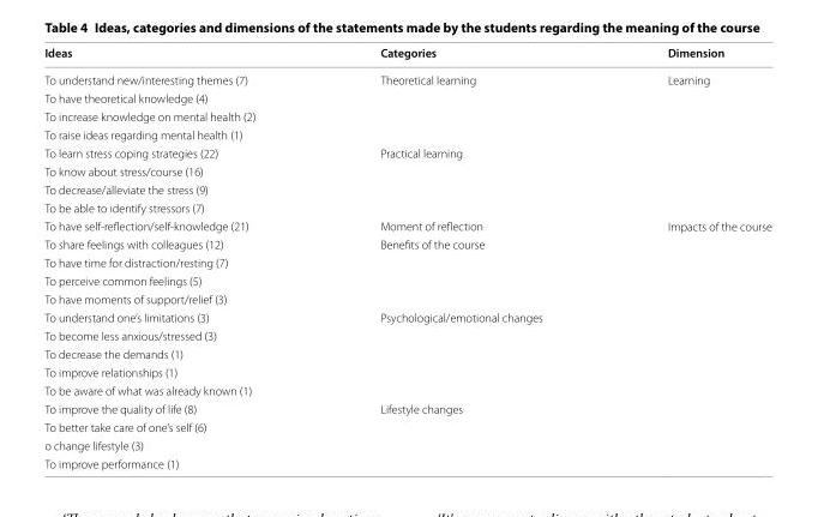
<table><thead><tr><td>Ideas</td><td>Categories</td><td>Dimension</td></tr></thead><tbody><tr><td>To understand new/interesting themes (7)</td><td rowspan="4">Theoretical learning</td><td rowspan="8">Learning</td></tr><tr><td>To have theoretical knowledge (4)</td></tr><tr><td>To increase knowledge on mental health (2)</td></tr><tr><td>To raise ideas regarding mental health (1)</td></tr><tr><td>To learn stress coping strategies (22)</td><td rowspan="4">Practical learning</td></tr><tr><td>To know about stress/course (16)</td></tr><tr><td>To decrease/alleviate the stress (9)</td></tr><tr><td>To be able to identify stressors (7)</td></tr><tr><td>To have self-reflection/self-knowledge (21)</td><td>Moment of reflection</td><td rowspan="14">Impacts of the course</td></tr><tr><td>To share feelings with colleagues (12)</td><td rowspan="4">Benefits of the course</td></tr><tr><td>To have time for distraction/resting (7)</td></tr><tr><td>To perceive common feelings (5)</td></tr><tr><td>To have moments of support/relief (3)</td></tr><tr><td>To understand one’s limitations (3)</td><td rowspan="5">Psychological/emotional changes</td></tr><tr><td>To become less anxious/stressed (3)</td></tr><tr><td>To decrease the demands (1)</td></tr><tr><td>To improve relationships (1)</td></tr><tr><td>To be aware of what was already known (1)</td></tr><tr><td>To improve the quality of life (8)</td><td rowspan="4">Lifestyle changes</td></tr><tr><td>To better take care of one’s self (6)</td></tr><tr><td>o change lifestyle (3)</td></tr><tr><td>To improve performance (1)</td></tr></tbody></table>